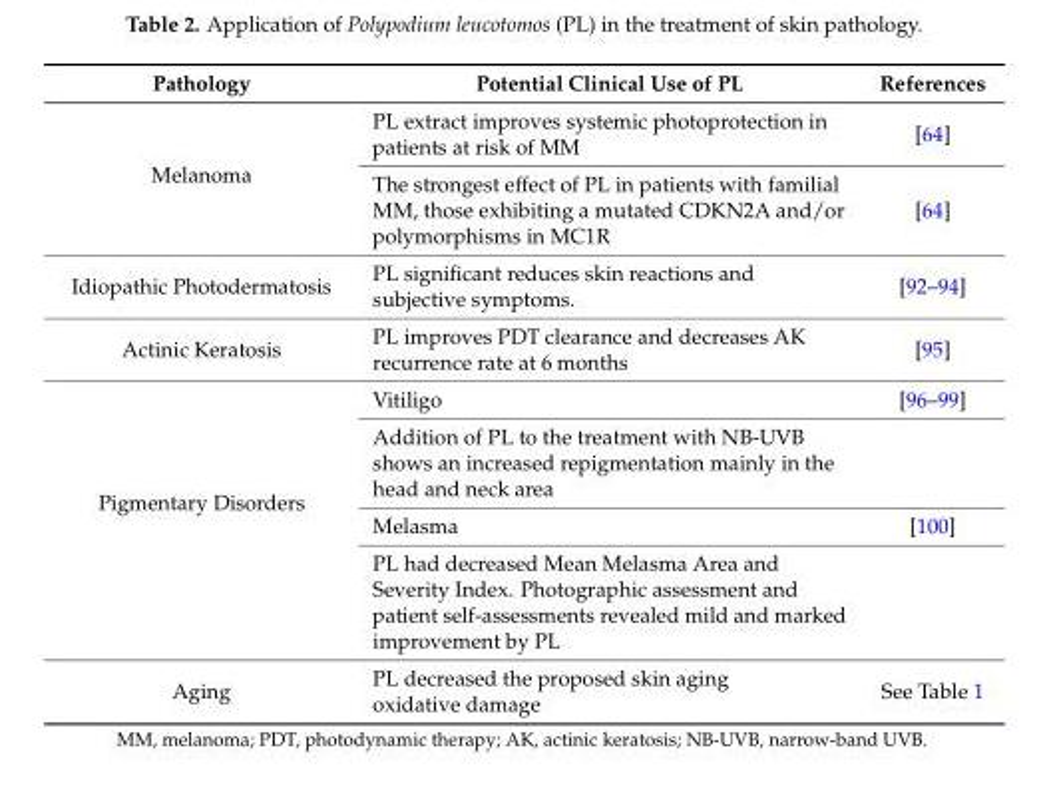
<table><thead><tr><td>Pathology</td><td>Potential Clinical Use of PL</td><td>References</td></tr></thead><tbody><tr><td rowspan="2">Melanoma</td><td>PL extract improves systemic photoprotection in patients at risk of MM</td><td>[64]</td></tr><tr><td>The strongest effect of PL in patients with familial MM, those exhibiting a mutated CDKN2A and/or polymorphisms in MC1R</td><td>[64]</td></tr><tr><td>Idiopathic Photodermatosis</td><td>PL significant reduces skin reactions and subjective symptoms.</td><td>[92–94]</td></tr><tr><td>Actinic Keratosis</td><td>PL improves PDT clearance and decreases AK recurrence rate at 6 months</td><td>[95]</td></tr><tr><td rowspan="4">Pigmentary Disorders</td><td>Vitiligo</td><td>[96–99]</td></tr><tr><td>Addition of PL to the treatment with NB-UVB shows an increased repigmentation mainly in the head and neck area</td><td></td></tr><tr><td>Melasma</td><td>[100]</td></tr><tr><td>PL had decreased Mean Melasma Area and Severity Index. Photographic assessment and patient self-assessments revealed mild and marked improvement by PL</td><td></td></tr><tr><td>Aging</td><td>PL decreased the proposed skin aging oxidative damage</td><td>See Table 1</td></tr></tbody></table>